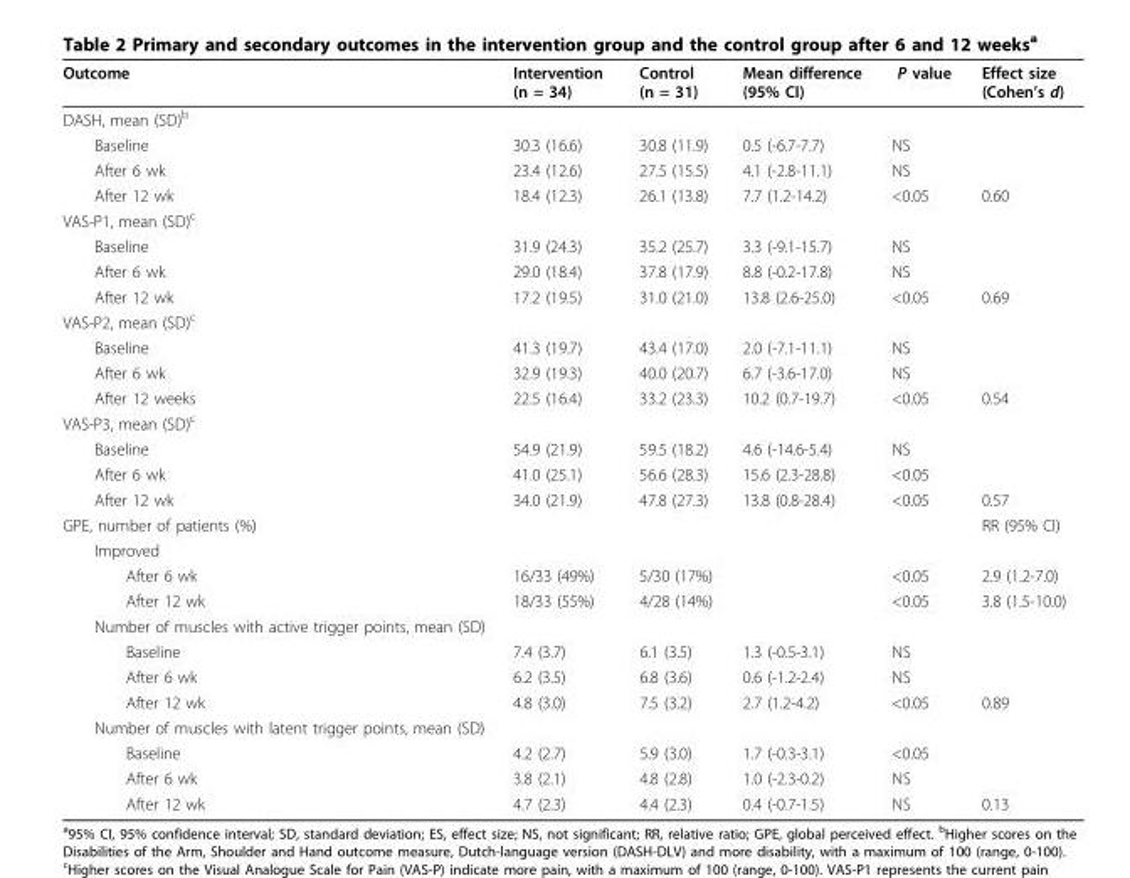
<table><thead><tr><td>Outcome</td><td>Intervention (n = 34)</td><td>Control (n = 31)</td><td>Mean difference (95% CI)</td><td>P value</td><td>Effect size (Cohen’s d)</td></tr></thead><tbody><tr><td colspan="6">DASH, mean (SD)<sup>b</sup></td></tr><tr><td>Baseline</td><td>30.3 (16.6)</td><td>30.8 (11.9)</td><td>0.5 (-6.7-7.7)</td><td>NS</td><td></td></tr><tr><td>After 6 wk</td><td>23.4 (12.6)</td><td>27.5 (15.5)</td><td>4.1 (-2.8-11.1)</td><td>NS</td><td></td></tr><tr><td>After 12 wk</td><td>18.4 (12.3)</td><td>26.1 (13.8)</td><td>7.7 (1.2-14.2)</td><td>&lt;0.05</td><td>0.60</td></tr><tr><td colspan="6">VAS-P1, mean (SD)<sup>c</sup></td></tr><tr><td>Baseline</td><td>31.9 (24.3)</td><td>35.2 (25.7)</td><td>3.3 (-9.1-15.7)</td><td>NS</td><td></td></tr><tr><td>After 6 wk</td><td>29.0 (18.4)</td><td>37.8 (17.9)</td><td>8.8 (-0.2-17.8)</td><td>NS</td><td></td></tr><tr><td>After 12 wk</td><td>17.2 (19.5)</td><td>31.0 (21.0)</td><td>13.8 (2.6-25.0)</td><td>&lt;0.05</td><td>0.69</td></tr><tr><td colspan="6">VAS-P2, mean (SD)<sup>c</sup></td></tr><tr><td>Baseline</td><td>41.3 (19.7)</td><td>43.4 (17.0)</td><td>2.0 (-7.1-11.1)</td><td>NS</td><td></td></tr><tr><td>After 6 wk</td><td>32.9 (19.3)</td><td>40.0 (20.7)</td><td>6.7 (-3.6-17.0)</td><td>NS</td><td></td></tr><tr><td>After 12 weeks</td><td>22.5 (16.4)</td><td>33.2 (23.3)</td><td>10.2 (0.7-19.7)</td><td>&lt;0.05</td><td>0.54</td></tr><tr><td colspan="6">VAS-P3, mean (SD)<sup>c</sup></td></tr><tr><td>Baseline</td><td>54.9 (21.9)</td><td>59.5 (18.2)</td><td>4.6 (-14.6-5.4)</td><td>NS</td><td></td></tr><tr><td>After 6 wk</td><td>41.0 (25.1)</td><td>56.6 (28.3)</td><td>15.6 (2.3-28.8)</td><td>&lt;0.05</td><td></td></tr><tr><td>After 12 wk</td><td>34.0 (21.9)</td><td>47.8 (27.3)</td><td>13.8 (0.8-28.4)</td><td>&lt;0.05</td><td>0.57</td></tr><tr><td>GPE, number of patients (%)</td><td></td><td></td><td></td><td></td><td>RR (95% CI)</td></tr><tr><td colspan="6">Improved</td></tr><tr><td>After 6 wk</td><td>16/33 (49%)</td><td>5/30 (17%)</td><td></td><td>&lt;0.05</td><td>2.9 (1.2-7.0)</td></tr><tr><td>After 12 wk</td><td>18/33 (55%)</td><td>4/28 (14%)</td><td></td><td>&lt;0.05</td><td>3.8 (1.5-10.0)</td></tr><tr><td colspan="6">Number of muscles with active trigger points, mean (SD)</td></tr><tr><td>Baseline</td><td>7.4 (3.7)</td><td>6.1 (3.5)</td><td>1.3 (-0.5-3.1)</td><td>NS</td><td></td></tr><tr><td>After 6 wk</td><td>6.2 (3.5)</td><td>6.8 (3.6)</td><td>0.6 (-1.2-2.4)</td><td>NS</td><td></td></tr><tr><td>After 12 wk</td><td>4.8 (3.0)</td><td>7.5 (3.2)</td><td>2.7 (1.2-4.2)</td><td>&lt;0.05</td><td>0.89</td></tr><tr><td colspan="6">Number of muscles with latent trigger points, mean (SD)</td></tr><tr><td>Baseline</td><td>4.2 (2.7)</td><td>5.9 (3.0)</td><td>1.7 (-0.3-3.1)</td><td>&lt;0.05</td><td></td></tr><tr><td>After 6 wk</td><td>3.8 (2.1)</td><td>4.8 (2.8)</td><td>1.0 (-2.3-0.2)</td><td>NS</td><td></td></tr><tr><td>After 12 wk</td><td>4.7 (2.3)</td><td>4.4 (2.3)</td><td>0.4 (-0.7-1.5)</td><td>NS</td><td>0.13</td></tr></tbody></table>